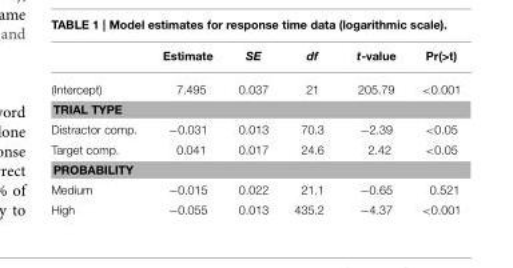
<table><thead><tr><td></td><td>Estimate</td><td>SE</td><td>df</td><td>t-value</td><td>Pr(&gt;t)</td></tr></thead><tbody><tr><td>(Intercept)</td><td>7.495</td><td>0.037</td><td>21</td><td>205.79</td><td>&lt;0.001</td></tr><tr><td colspan="6">TRIAL TYPE</td></tr><tr><td>Distractor comp.</td><td>−0.031</td><td>0.013</td><td>70.3</td><td>−2.39</td><td>&lt;0.05</td></tr><tr><td>Target comp.</td><td>0.041</td><td>0.017</td><td>24.6</td><td>2.42</td><td>&lt;0.05</td></tr><tr><td colspan="6">PROBABILITY</td></tr><tr><td>Medium</td><td>−0.015</td><td>0.022</td><td>21.1</td><td>−0.65</td><td>0.521</td></tr><tr><td>High</td><td>−0.055</td><td>0.013</td><td>435.2</td><td>−4.37</td><td>&lt;0.001</td></tr></tbody></table>